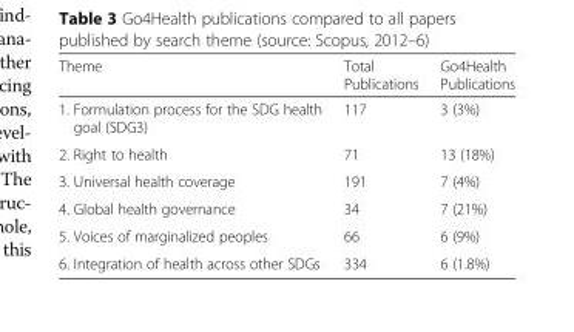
<table><thead><tr><td>Theme</td><td>Total Publications</td><td>Go4Health Publications</td></tr></thead><tbody><tr><td>1. Formulation process for the SDG health goal (SDG3)</td><td>117</td><td>3 (3%)</td></tr><tr><td>2. Right to health</td><td>71</td><td>13 (18%)</td></tr><tr><td>3. Universal health coverage</td><td>191</td><td>7 (4%)</td></tr><tr><td>4. Global health governance</td><td>34</td><td>7 (21%)</td></tr><tr><td>5. Voices of marginalized peoples</td><td>66</td><td>6 (9%)</td></tr><tr><td>6. Integration of health across other SDGs</td><td>334</td><td>6 (1.8%)</td></tr></tbody></table>